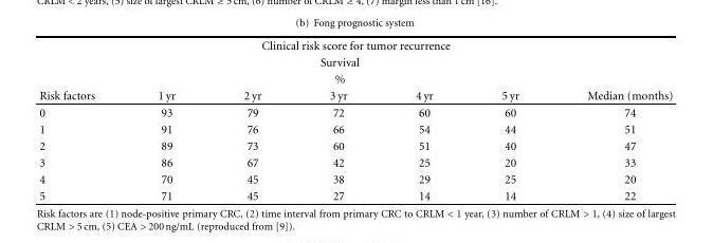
<table><tbody><tr><td colspan="7">Clinical risk score for tumor recurrence</td></tr><tr><td></td><td colspan="5">Survival</td><td></td></tr><tr><td></td><td colspan="5">%</td><td></td></tr><tr><td>Risk factors</td><td>1 yr</td><td>2 yr</td><td>3 yr</td><td>4 yr</td><td>5 yr</td><td>Median (months)</td></tr><tr><td>0</td><td>93</td><td>79</td><td>72</td><td>60</td><td>60</td><td>74</td></tr><tr><td>1</td><td>91</td><td>76</td><td>66</td><td>54</td><td>44</td><td>51</td></tr><tr><td>2</td><td>89</td><td>73</td><td>60</td><td>51</td><td>40</td><td>47</td></tr><tr><td>3</td><td>86</td><td>67</td><td>42</td><td>25</td><td>20</td><td>33</td></tr><tr><td>4</td><td>70</td><td>45</td><td>38</td><td>29</td><td>25</td><td>20</td></tr><tr><td>5</td><td>71</td><td>45</td><td>27</td><td>14</td><td>14</td><td>22</td></tr></tbody></table>